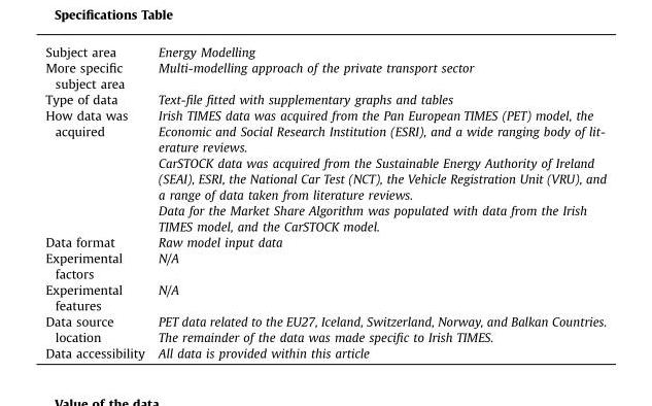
<table><tbody><tr><td>Subject area</td><td>Energy Modelling</td></tr><tr><td>More specific subject area</td><td>Multi-modelling approach of the private transport sector</td></tr><tr><td>Type of data</td><td>Text-file fitted with supplementary graphs and tables</td></tr><tr><td rowspan="3">How data was acquired</td><td>Irish TIMES data was acquired from the Pan European TIMES (PET) model, the Economic and Social Research Institution (ESRI), and a wide ranging body of lit- erature reviews.</td></tr><tr><td>CarSTOCK data was acquired from the Sustainable Energy Authority of Ireland (SEAI), ESRI, the National Car Test (NCT), the Vehicle Registration Unit (VRU), and a range of data taken from literature reviews.</td></tr><tr><td>Data for the Market Share Algorithm was populated with data from the Irish TIMES model, and the CarSTOCK model.</td></tr><tr><td>Data format</td><td>Raw model input data</td></tr><tr><td>Experimental factors</td><td>N/A</td></tr><tr><td>Experimental features</td><td>N/A</td></tr><tr><td>Data source location</td><td>PET data related to the EU27, Iceland, Switzerland, Norway, and Balkan Countries. The remainder of the data was made specific to Irish TIMES.</td></tr><tr><td>Data accessibility</td><td>All data is provided within this article</td></tr></tbody></table>